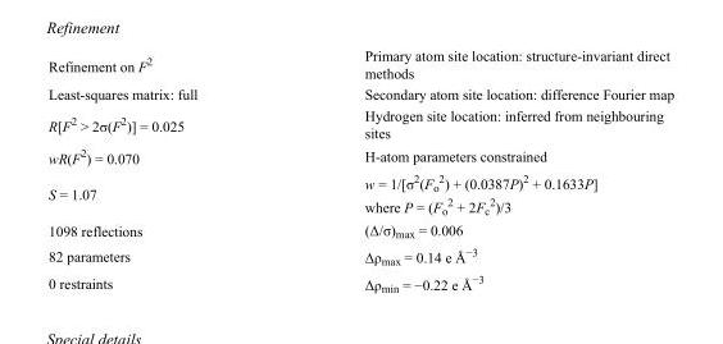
<table><tbody><tr><td>Refinement on F<sup>2</sup></td><td>Primary atom site location: structure-invariant direct methods</td></tr><tr><td>Least-squares matrix: full</td><td>Secondary atom site location: difference Fourier map</td></tr><tr><td>R[F<sup>2</sup> &gt; 2σ(F<sup>2</sup>)] = 0.025</td><td>Hydrogen site location: inferred from neighbouring sites</td></tr><tr><td>wR(F<sup>2</sup>) = 0.070</td><td>H-atom parameters constrained</td></tr><tr><td>S = 1.07</td><td>w = 1/[σ<sup>2</sup>(F<sub>o</sub> <sup>2</sup>) + (0.0387P)<sup>2</sup> + 0.1633P] where P = (F<sub>o</sub> <sup>2</sup> + 2F<sub>c</sub> <sup>2</sup>)/3</td></tr><tr><td>1098 reflections</td><td>(Δ/σ)<sub>max</sub> = 0.006</td></tr><tr><td>82 parameters</td><td>Δρ<sub>max</sub> = 0.14 e Å<sup>−3</sup></td></tr><tr><td>0 restraints</td><td>Δρ<sub>min</sub> = −0.22 e Å<sup>−3</sup></td></tr></tbody></table>